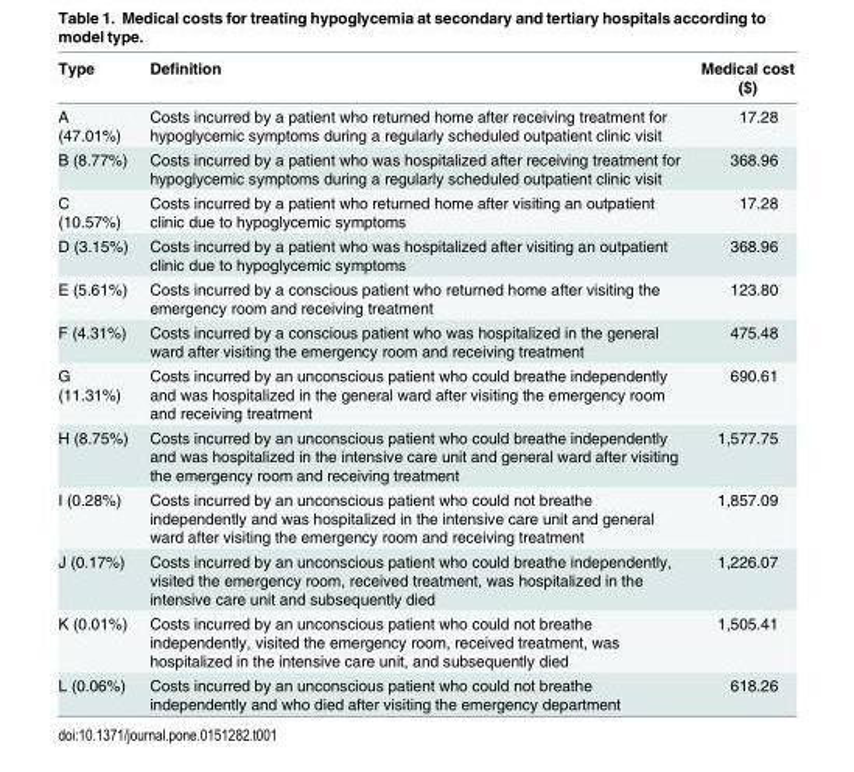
<table><thead><tr><td>Type</td><td>Definition</td><td>Medical cost ($)</td></tr></thead><tbody><tr><td>A (47.01%)</td><td>Costs incurred by a patient who returned home after receiving treatment for hypoglycemic symptoms during a regularly scheduled outpatient clinic visit</td><td>17.28</td></tr><tr><td>B (8.77%)</td><td>Costs incurred by a patient who was hospitalized after receiving treatment for hypoglycemic symptoms during a regularly scheduled outpatient clinic visit</td><td>368.96</td></tr><tr><td>C (10.57%)</td><td>Costs incurred by a patient who returned home after visiting an outpatient clinic due to hypoglycemic symptoms</td><td>17.28</td></tr><tr><td>D (3.15%)</td><td>Costs incurred by a patient who was hospitalized after visiting an outpatient clinic due to hypoglycemic symptoms</td><td>368.96</td></tr><tr><td>E (5.61%)</td><td>Costs incurred by a conscious patient who returned home after visiting the emergency room and receiving treatment</td><td>123.80</td></tr><tr><td>F (4.31%)</td><td>Costs incurred by a conscious patient who was hospitalized in the general ward after visiting the emergency room and receiving treatment</td><td>475.48</td></tr><tr><td>G (11.31%)</td><td>Costs incurred by an unconscious patient who could breathe independently and was hospitalized in the general ward after visiting the emergency room and receiving treatment</td><td>690.61</td></tr><tr><td>H (8.75%)</td><td>Costs incurred by an unconscious patient who could breathe independently and was hospitalized in the intensive care unit and general ward after visiting the emergency room and receiving treatment</td><td>1,577.75</td></tr><tr><td>I (0.28%)</td><td>Costs incurred by an unconscious patient who could not breathe independently and was hospitalized in the intensive care unit and general ward after visiting the emergency room and receiving treatment</td><td>1,857.09</td></tr><tr><td>J (0.17%)</td><td>Costs incurred by an unconscious patient who could breathe independently, visited the emergency room, received treatment, was hospitalized in the intensive care unit and subsequently died</td><td>1,226.07</td></tr><tr><td>K (0.01%)</td><td>Costs incurred by an unconscious patient who could not breathe independently, visited the emergency room, received treatment, was hospitalized in the intensive care unit, and subsequently died</td><td>1,505.41</td></tr><tr><td>L (0.06%)</td><td>Costs incurred by an unconscious patient who could not breathe independently and who died after visiting the emergency department</td><td>618.26</td></tr></tbody></table>